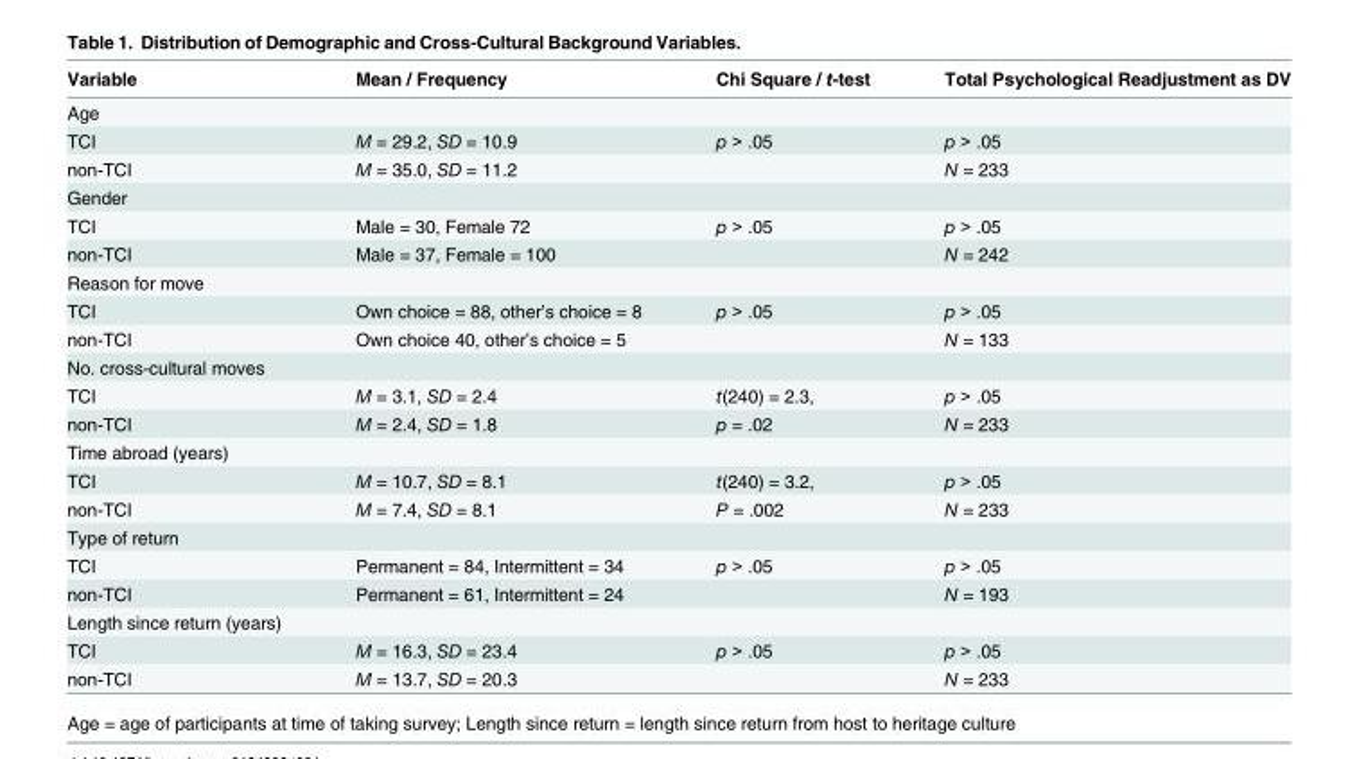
<table><thead><tr><td>Variable</td><td>Mean / Frequency</td><td>Chi Square / t-test</td><td>Total Psychological Readjustment as DV</td></tr></thead><tbody><tr><td colspan="4">Age</td></tr><tr><td>TCI</td><td>M = 29.2, SD = 10.9</td><td>p &gt; .05</td><td>p &gt; .05</td></tr><tr><td>non-TCI</td><td>M = 35.0, SD = 11.2</td><td></td><td>N = 233</td></tr><tr><td colspan="4">Gender</td></tr><tr><td>TCI</td><td>Male = 30, Female 72</td><td>p &gt; .05</td><td>p &gt; .05</td></tr><tr><td>non-TCI</td><td>Male = 37, Female = 100</td><td></td><td>N = 242</td></tr><tr><td colspan="4">Reason for move</td></tr><tr><td>TCI</td><td>Own choice = 88, other’s choice = 8</td><td>p &gt; .05</td><td>p &gt; .05</td></tr><tr><td>non-TCI</td><td>Own choice 40, other’s choice = 5</td><td></td><td>N = 133</td></tr><tr><td colspan="4">No. cross-cultural moves</td></tr><tr><td>TCI</td><td>M = 3.1, SD = 2.4</td><td>t(240) = 2.3,</td><td>p &gt; .05</td></tr><tr><td>non-TCI</td><td>M = 2.4, SD = 1.8</td><td>p = .02</td><td>N = 233</td></tr><tr><td colspan="4">Time abroad (years)</td></tr><tr><td>TCI</td><td>M = 10.7, SD = 8.1</td><td>t(240) = 3.2,</td><td>p &gt; .05</td></tr><tr><td>non-TCI</td><td>M = 7.4, SD = 8.1</td><td>P = .002</td><td>N = 233</td></tr><tr><td colspan="4">Type of return</td></tr><tr><td>TCI</td><td>Permanent = 84, Intermittent = 34</td><td>p &gt; .05</td><td>p &gt; .05</td></tr><tr><td>non-TCI</td><td>Permanent = 61, Intermittent = 24</td><td></td><td>N = 193</td></tr><tr><td colspan="4">Length since return (years)</td></tr><tr><td>TCI</td><td>M = 16.3, SD = 23.4</td><td>p &gt; .05</td><td>p &gt; .05</td></tr><tr><td>non-TCI</td><td>M = 13.7, SD = 20.3</td><td></td><td>N = 233</td></tr></tbody></table>